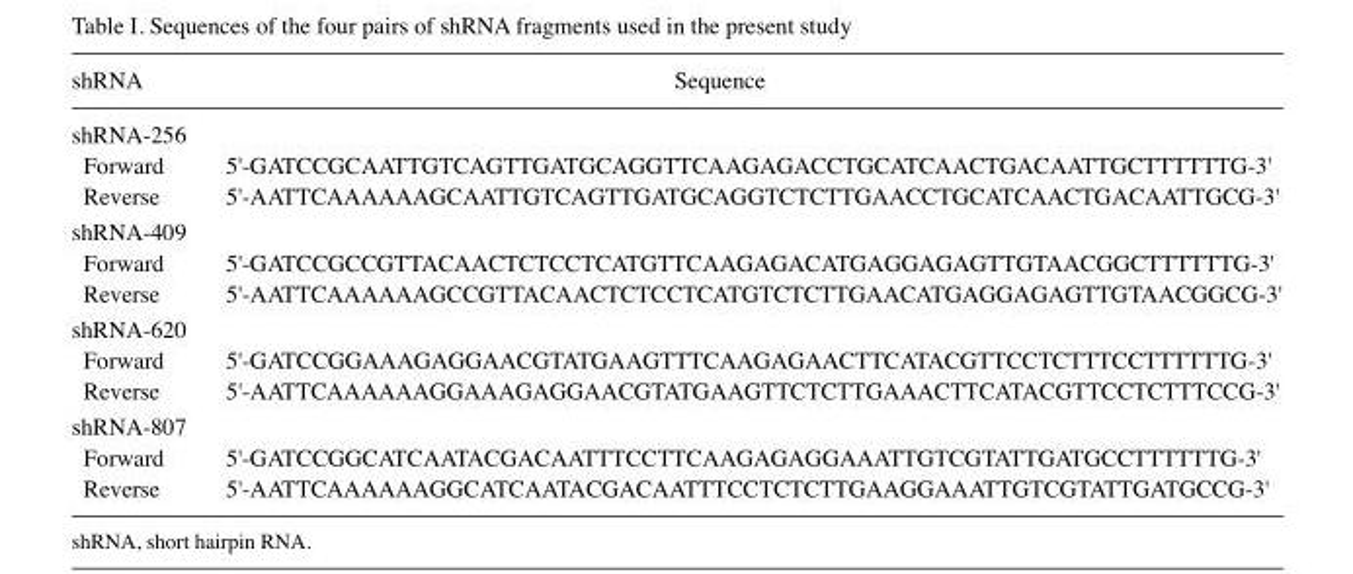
<table><thead><tr><td>shRNA</td><td>Sequence</td></tr></thead><tbody><tr><td colspan="2">shRNA-256</td></tr><tr><td>Forward</td><td>5&#x27;-GAT CCG CAA TTG TCA GTT GAT GCA GGT TCA AGA GAC CTG CAT CAA CTG ACA ATT GCT TTT TTG-3&#x27;</td></tr><tr><td>Reverse</td><td>5&#x27;-AAT TCA AAA AAG CAA TTG TCA GTT GAT GCA GGT CTC TTG AAC CTG CAT CAA CTG ACA ATT GCG-3&#x27;</td></tr><tr><td colspan="2">shRNA-409</td></tr><tr><td>Forward</td><td>5&#x27;-GAT CCG CCG TTA CAA CTC TCC TCA TGT TCA AGA GAC ATG AGG AGA GTT GTA ACG GCT TTT TTG-3&#x27;</td></tr><tr><td>Reverse</td><td>5&#x27;-AAT TCA AAA AAG CCG TTA CAA CTC TCC TCA TGT CTC TTG AAC ATG AGG AGA GTT GTA ACG GCG-3&#x27;</td></tr><tr><td colspan="2">shRNA-620</td></tr><tr><td>Forward</td><td>5&#x27;-GAT CCG GAA AGA GGA ACG TAT GAA GTT TCA AGA GAA CTT CAT ACG TTC CTC TTT CCT TTT TTG-3&#x27;</td></tr><tr><td>Reverse</td><td>5&#x27;-AAT TCA AAA AAG GAA AGA GGA ACG TAT GAA GTT CTC TTG AAA CTT CAT ACG TTC CTC TTT CCG-3&#x27;</td></tr><tr><td colspan="2">shRNA-807</td></tr><tr><td>Forward</td><td>5&#x27;-GATCCGGCATCAATACGACAATTTCCTTCAAGAGAGGAAATTGTCGTATTGATGCCTTTTTTG-3&#x27;</td></tr><tr><td>Reverse</td><td>5&#x27;-AATTCAAAAAAGGCATCAATACGACAATTTCCTCTCTTGAAGGAAATTGTCGTATTGATGCCG-3&#x27;</td></tr></tbody></table>